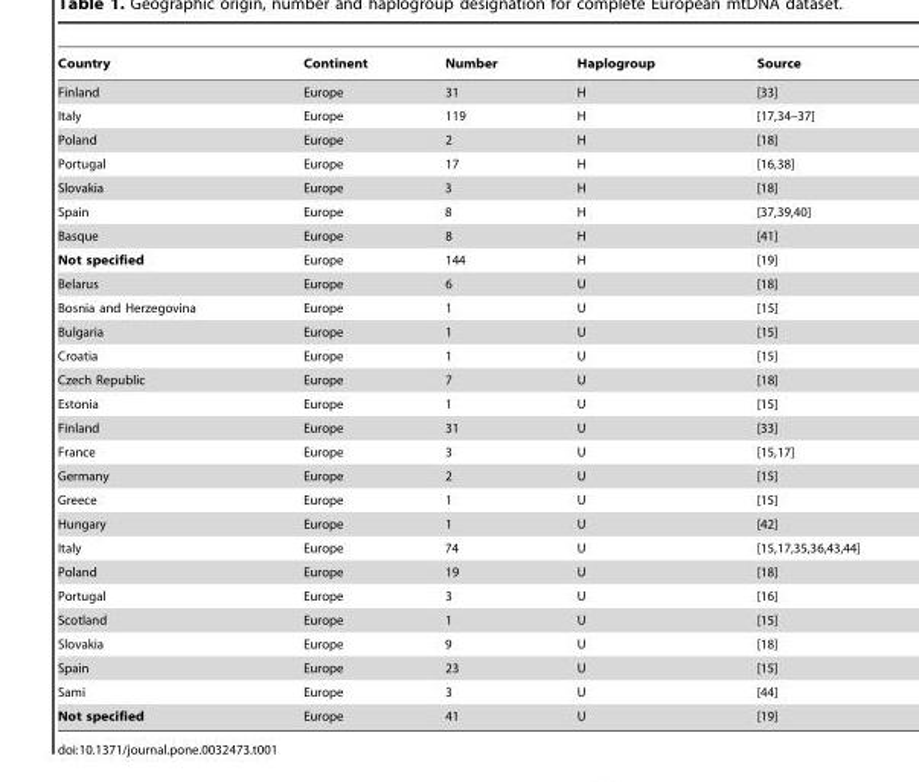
<table><thead><tr><td>Country</td><td>Continent</td><td>Number</td><td>Haplogroup</td><td>Source</td></tr></thead><tbody><tr><td>Finland</td><td>Europe</td><td>31</td><td>H</td><td>[33]</td></tr><tr><td>Italy</td><td>Europe</td><td>119</td><td>H</td><td>[17,34–37]</td></tr><tr><td>Poland</td><td>Europe</td><td>2</td><td>H</td><td>[18]</td></tr><tr><td>Portugal</td><td>Europe</td><td>17</td><td>H</td><td>[16,38]</td></tr><tr><td>Slovakia</td><td>Europe</td><td>3</td><td>H</td><td>[18]</td></tr><tr><td>Spain</td><td>Europe</td><td>8</td><td>H</td><td>[37,39,40]</td></tr><tr><td>Basque</td><td>Europe</td><td>8</td><td>H</td><td>[41]</td></tr><tr><td>Not specified</td><td>Europe</td><td>144</td><td>H</td><td>[19]</td></tr><tr><td>Belarus</td><td>Europe</td><td>6</td><td>U</td><td>[18]</td></tr><tr><td>Bosnia and Herzegovina</td><td>Europe</td><td>1</td><td>U</td><td>[15]</td></tr><tr><td>Bulgaria</td><td>Europe</td><td>1</td><td>U</td><td>[15]</td></tr><tr><td>Croatia</td><td>Europe</td><td>1</td><td>U</td><td>[15]</td></tr><tr><td>Czech Republic</td><td>Europe</td><td>7</td><td>U</td><td>[18]</td></tr><tr><td>Estonia</td><td>Europe</td><td>1</td><td>U</td><td>[15]</td></tr><tr><td>Finland</td><td>Europe</td><td>31</td><td>U</td><td>[33]</td></tr><tr><td>France</td><td>Europe</td><td>3</td><td>U</td><td>[15,17]</td></tr><tr><td>Germany</td><td>Europe</td><td>2</td><td>U</td><td>[15]</td></tr><tr><td>Greece</td><td>Europe</td><td>1</td><td>U</td><td>[15]</td></tr><tr><td>Hungary</td><td>Europe</td><td>1</td><td>U</td><td>[42]</td></tr><tr><td>Italy</td><td>Europe</td><td>74</td><td>U</td><td>[15,17,35,36,43,44]</td></tr><tr><td>Poland</td><td>Europe</td><td>19</td><td>U</td><td>[18]</td></tr><tr><td>Portugal</td><td>Europe</td><td>3</td><td>U</td><td>[16]</td></tr><tr><td>Scotland</td><td>Europe</td><td>1</td><td>U</td><td>[15]</td></tr><tr><td>Slovakia</td><td>Europe</td><td>9</td><td>U</td><td>[18]</td></tr><tr><td>Spain</td><td>Europe</td><td>23</td><td>U</td><td>[15]</td></tr><tr><td>Sami</td><td>Europe</td><td>3</td><td>U</td><td>[44]</td></tr><tr><td>Not specified</td><td>Europe</td><td>41</td><td>U</td><td>[19]</td></tr></tbody></table>